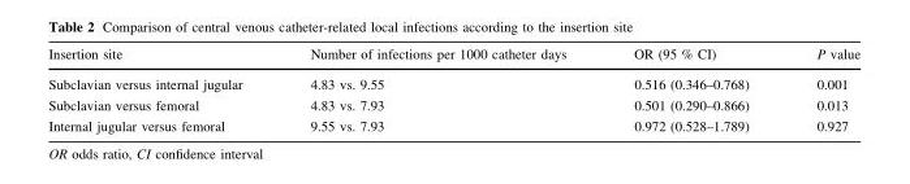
<table><thead><tr><td>Insertion site</td><td>Number of infections per 1000 catheter days</td><td>OR (95 % CI)</td><td>P value</td></tr></thead><tbody><tr><td>Subclavian versus internal jugular</td><td>4.83 vs. 9.55</td><td>0.516 (0.346–0.768)</td><td>0.001</td></tr><tr><td>Subclavian versus femoral</td><td>4.83 vs. 7.93</td><td>0.501 (0.290–0.866)</td><td>0.013</td></tr><tr><td>Internal jugular versus femoral</td><td>9.55 vs. 7.93</td><td>0.972 (0.528–1.789)</td><td>0.927</td></tr></tbody></table>